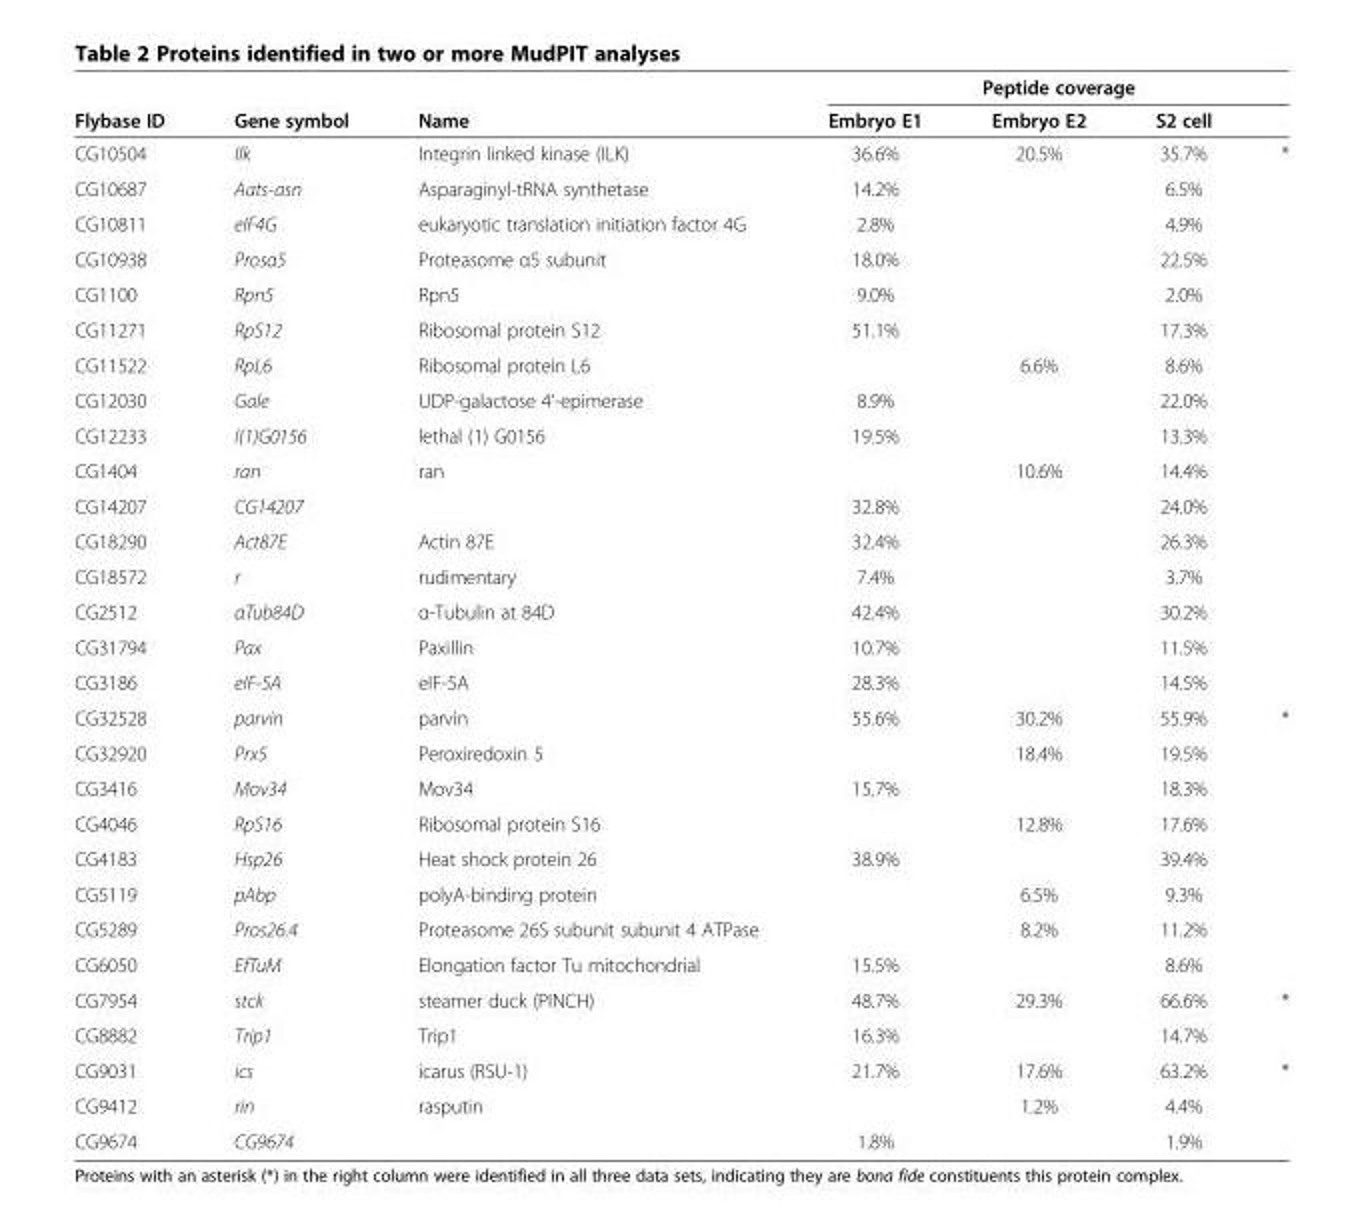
<table><thead><tr><td rowspan="2">Flybase ID</td><td rowspan="2">Gene symbol</td><td rowspan="2">Name</td><td colspan="4">Peptide coverage</td></tr><tr><td>Embryo E1</td><td>Embryo E2</td><td>S2 cell</td><td></td></tr></thead><tbody><tr><td>CG10504</td><td>Ilk</td><td>Integrin linked kinase (ILK)</td><td>36.6%</td><td>20.5%</td><td>35.7%</td><td>*</td></tr><tr><td>CG10687</td><td>Aats-asn</td><td>Asparaginyl-tRNA synthetase</td><td>14.2%</td><td></td><td>6.5%</td><td></td></tr><tr><td>CG10811</td><td>eIF4G</td><td>eukaryotic translation initiation factor 4G</td><td>2.8%</td><td></td><td>4.9%</td><td></td></tr><tr><td>CG10938</td><td>Prosα5</td><td>Proteasome α5 subunit</td><td>18.0%</td><td></td><td>22.5%</td><td></td></tr><tr><td>CG1100</td><td>Rpn5</td><td>Rpn5</td><td>9.0%</td><td></td><td>2.0%</td><td></td></tr><tr><td>CG11271</td><td>RpS12</td><td>Ribosomal protein S12</td><td>51.1%</td><td></td><td>17.3%</td><td></td></tr><tr><td>CG11522</td><td>RpL6</td><td>Ribosomal protein L6</td><td></td><td>6.6%</td><td>8.6%</td><td></td></tr><tr><td>CG12030</td><td>Gale</td><td>UDP-galactose 4&#x27;-epimerase</td><td>8.9%</td><td></td><td>22.0%</td><td></td></tr><tr><td>CG12233</td><td>l(1)G0156</td><td>lethal (1) G0156</td><td>19.5%</td><td></td><td>13.3%</td><td></td></tr><tr><td>CG1404</td><td>ran</td><td>ran</td><td></td><td>10.6%</td><td>14.4%</td><td></td></tr><tr><td>CG14207</td><td>CG14207</td><td></td><td>32.8%</td><td></td><td>24.0%</td><td></td></tr><tr><td>CG18290</td><td>Act87E</td><td>Actin 87E</td><td>32.4%</td><td></td><td>26.3%</td><td></td></tr><tr><td>CG18572</td><td>r</td><td>rudimentary</td><td>7.4%</td><td></td><td>3.7%</td><td></td></tr><tr><td>CG2512</td><td>αTub84D</td><td>α-Tubulin at 84D</td><td>42.4%</td><td></td><td>30.2%</td><td></td></tr><tr><td>CG31794</td><td>Pax</td><td>Paxillin</td><td>10.7%</td><td></td><td>11.5%</td><td></td></tr><tr><td>CG3186</td><td>eIF-5A</td><td>eIF-5A</td><td>28.3%</td><td></td><td>14.5%</td><td></td></tr><tr><td>CG32528</td><td>parvin</td><td>parvin</td><td>55.6%</td><td>30.2%</td><td>55.9%</td><td>*</td></tr><tr><td>CG32920</td><td>Prx5</td><td>Peroxiredoxin 5</td><td></td><td>18.4%</td><td>19.5%</td><td></td></tr><tr><td>CG3416</td><td>Mov34</td><td>Mov34</td><td>15.7%</td><td></td><td>18.3%</td><td></td></tr><tr><td>CG4046</td><td>RpS16</td><td>Ribosomal protein S16</td><td></td><td>12.8%</td><td>17.6%</td><td></td></tr><tr><td>CG4183</td><td>Hsp26</td><td>Heat shock protein 26</td><td>38.9%</td><td></td><td>39.4%</td><td></td></tr><tr><td>CG5119</td><td>pAbp</td><td>polyA-binding protein</td><td></td><td>6.5%</td><td>9.3%</td><td></td></tr><tr><td>CG5289</td><td>Pros26.4</td><td>Proteasome 26S subunit subunit 4 ATPase</td><td></td><td>8.2%</td><td>11.2%</td><td></td></tr><tr><td>CG6050</td><td>EfTuM</td><td>Elongation factor Tu mitochondrial</td><td>15.5%</td><td></td><td>8.6%</td><td></td></tr><tr><td>CG7954</td><td>stck</td><td>steamer duck (PINCH)</td><td>48.7%</td><td>29.3%</td><td>66.6%</td><td>*</td></tr><tr><td>CG8882</td><td>Trip1</td><td>Trip1</td><td>16.3%</td><td></td><td>14.7%</td><td></td></tr><tr><td>CG9031</td><td>ics</td><td>icarus (RSU-1)</td><td>21.7%</td><td>17.6%</td><td>63.2%</td><td>*</td></tr><tr><td>CG9412</td><td>rin</td><td>rasputin</td><td></td><td>1.2%</td><td>4.4%</td><td></td></tr><tr><td>CG9674</td><td>CG9674</td><td></td><td>1.8%</td><td></td><td>1.9%</td><td></td></tr></tbody></table>